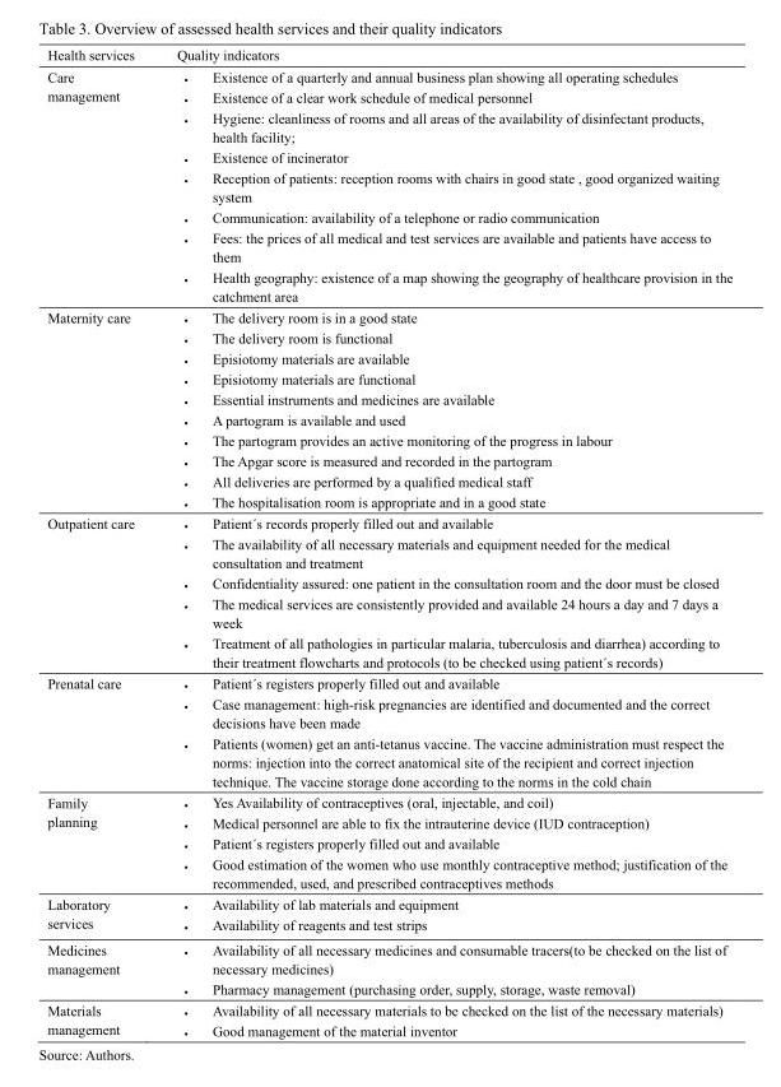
<table><thead><tr><td>Health services</td><td>Quality indicators</td></tr></thead><tbody><tr><td>Care management</td><td>• Existence of a quarterly and annual business plan showing all operating schedules • Existence of a clear work schedule of medical personnel • Hygiene: cleanliness of rooms and all areas of the availability of disinfectant products, health facility; • Existence of incinerator • Reception of patients: reception rooms with chairs in good state , good organized waiting system • Communication: availability of a telephone or radio communication • Fees: the prices of all medical and test services are available and patients have access to them • Health geography: existence of a map showing the geography of healthcare provision in the catchment area</td></tr><tr><td>Maternity care</td><td>• The delivery room is in a good state • The delivery room is functional • Episiotomy materials are available • Episiotomy materials are functional • Essential instruments and medicines are available • A partogram is available and used • The partogram provides an active monitoring of the progress in labour • The Apgar score is measured and recorded in the partogram • All deliveries are performed by a qualified medical staff • The hospitalisation room is appropriate and in a good state</td></tr><tr><td>Outpatient care</td><td>• Patient´s records properly filled out and available • The availability of all necessary materials and equipment needed for the medical consultation and treatment • Confidentiality assured: one patient in the consultation room and the door must be closed • The medical services are consistently provided and available 24 hours a day and 7 days a week • Treatment of all pathologies in particular malaria, tuberculosis and diarrhea) according to their treatment flowcharts and protocols (to be checked using patient´s records)</td></tr><tr><td>Prenatal care</td><td>• Patient´s registers properly filled out and available • Case management: high-risk pregnancies are identified and documented and the correct decisions have been made • Patients (women) get an anti-tetanus vaccine. The vaccine administration must respect the norms: injection into the correct anatomical site of the recipient and correct injection technique. The vaccine storage done according to the norms in the cold chain</td></tr><tr><td>Family planning</td><td>• Yes Availability of contraceptives (oral, injectable, and coil) • Medical personnel are able to fix the intrauterine device (IUD contraception) • Patient´s registers properly filled out and available • Good estimation of the women who use monthly contraceptive method; justification of the recommended, used, and prescribed contraceptives methods</td></tr><tr><td>Laboratory services</td><td>• Availability of lab materials and equipment • Availability of reagents and test strips</td></tr><tr><td>Medicines management</td><td>• Availability of all necessary medicines and consumable tracers(to be checked on the list of necessary medicines) • Pharmacy management (purchasing order, supply, storage, waste removal)</td></tr><tr><td>Materials management</td><td>• Availability of all necessary materials to be checked on the list of the necessary materials) • Good management of the material inventor</td></tr></tbody></table>